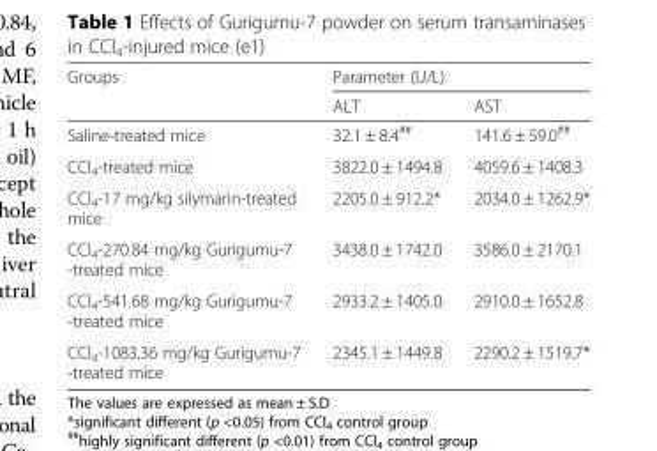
<table><thead><tr><td rowspan="2">Groups</td><td colspan="2">Parameter (U/L)</td></tr><tr><td>ALT</td><td>AST</td></tr></thead><tbody><tr><td>Saline-treated mice</td><td>32.1 ± 8.4<sup>##</sup></td><td>141.6 ± 59.0<sup>##</sup></td></tr><tr><td>CCl<sub>4</sub>-treated mice</td><td>3822.0 ± 1494.8</td><td>4059.6 ± 1408.3</td></tr><tr><td>CCl<sub>4</sub>-17 mg/kg silymarin-treated mice</td><td>2205.0 ± 912.2*</td><td>2034.0 ± 1262.9*</td></tr><tr><td>CCl<sub>4</sub>-270.84 mg/kg Gurigumu-7 -treated mice</td><td>3438.0 ± 1742.0</td><td>3586.0 ± 2170.1</td></tr><tr><td>CCl<sub>4</sub>-541.68 mg/kg Gurigumu-7 -treated mice</td><td>2933.2 ± 1405.0</td><td>2910.0 ± 1652.8</td></tr><tr><td>CCl<sub>4</sub>-1083.36 mg/kg Gurigumu-7 -treated mice</td><td>2345.1 ± 1449.8</td><td>2290.2 ± 1519.7*</td></tr></tbody></table>